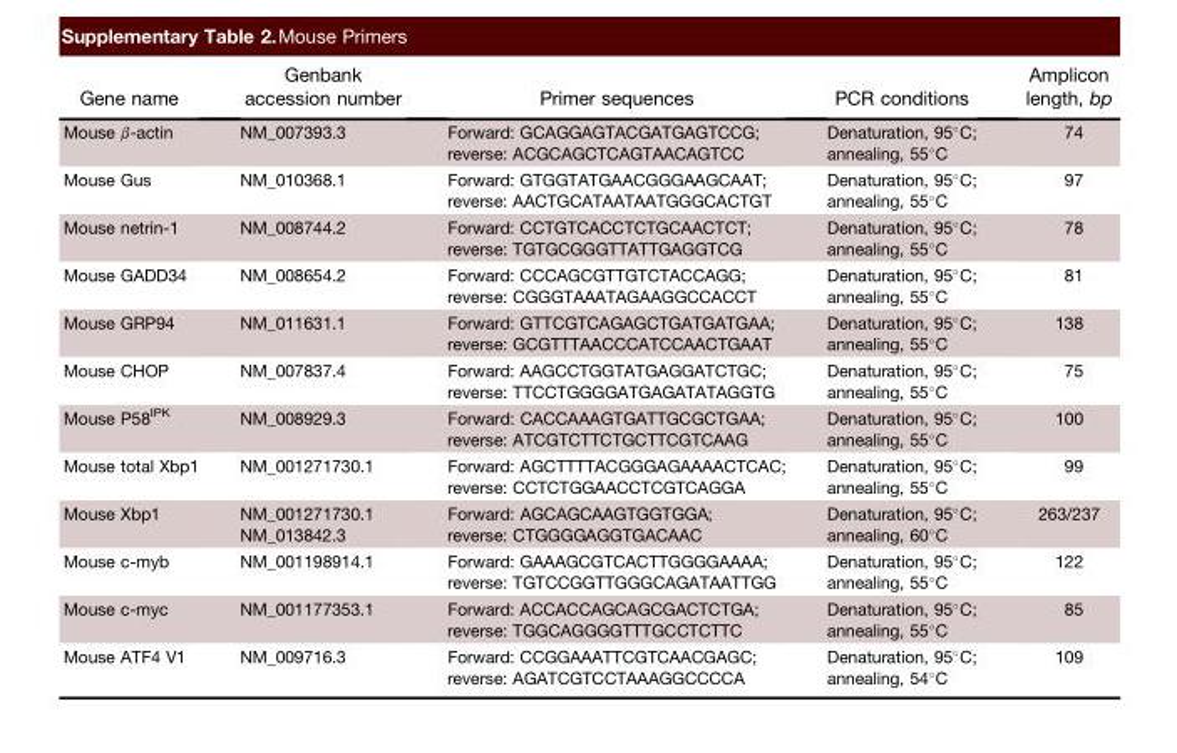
<table><thead><tr><td>Gene name</td><td>Genbank accession number</td><td>Primer sequences</td><td>PCR conditions</td><td>Amplicon length, bp</td></tr></thead><tbody><tr><td>Mouse β-actin</td><td>NM_007393.3</td><td>Forward: GCAGGAGTACGATGAGTCCG; reverse: ACGCAGCTCAGTAACAGTCC</td><td>Denaturation, 95°C; annealing, 55°C</td><td>74</td></tr><tr><td>Mouse Gus</td><td>NM_010368.1</td><td>Forward: GTGGTATGAACGGGAAGCAAT; reverse: AACTGCATAATAATGGGCACTGT</td><td>Denaturation, 95°C; annealing, 55°C</td><td>97</td></tr><tr><td>Mouse netrin-1</td><td>NM_008744.2</td><td>Forward: CCTGTCACCTCTGCAACTCT; reverse: TGTGCGGGTTATTGAGGTCG</td><td>Denaturation, 95°C; annealing, 55°C</td><td>78</td></tr><tr><td>Mouse GADD34</td><td>NM_008654.2</td><td>Forward: CCCAGCGTTGTCTACCAGG; reverse: CGGGTAAATAGAAGGCCACCT</td><td>Denaturation, 95°C; annealing, 55°C</td><td>81</td></tr><tr><td>Mouse GRP94</td><td>NM_011631.1</td><td>Forward: GTTCGTCAGAGCTGATGATGAA; reverse: GCGTTTAACCCATCCAACTGAAT</td><td>Denaturation, 95°C; annealing, 55°C</td><td>138</td></tr><tr><td>Mouse CHOP</td><td>NM_007837.4</td><td>Forward: AAGCCTGGTATGAGGATCTGC; reverse: TTCCTGGGGATGAGATATAGGTG</td><td>Denaturation, 95°C; annealing, 55°C</td><td>75</td></tr><tr><td>Mouse P58IPK</td><td>NM_008929.3</td><td>Forward: CACCAAAGTGATTGCGCTGAA; reverse: ATCGTCTTCTGCTTCGTCAAG</td><td>Denaturation, 95°C; annealing, 55°C</td><td>100</td></tr><tr><td>Mouse total Xbp1</td><td>NM_001271730.1</td><td>Forward: AGCTTTTACGGGAGAAAACTCAC; reverse: CCTCTGGAACCTCGTCAGGA</td><td>Denaturation, 95°C; annealing, 55°C</td><td>99</td></tr><tr><td>Mouse Xbp1</td><td>NM_001271730.1 NM_013842.3</td><td>Forward: AGCAGCAAGTGGTGGA; reverse: CTGGGGAGGTGACAAC</td><td>Denaturation, 95°C; annealing, 60°C</td><td>263/237</td></tr><tr><td>Mouse c-myb</td><td>NM_001198914.1</td><td>Forward: GAAAGCGTCACTTGGGGAAAA; reverse: TGTCCGGTTGGGCAGATAATTGG</td><td>Denaturation, 95°C; annealing, 55°C</td><td>122</td></tr><tr><td>Mouse c-myc</td><td>NM_001177353.1</td><td>Forward: ACCACCAGCAGCGACTCTGA; reverse: TGGCAGGGGTTTGCCTCTTC</td><td>Denaturation, 95°C; annealing, 55°C</td><td>85</td></tr><tr><td>Mouse ATF4 V1</td><td>NM_009716.3</td><td>Forward: CCGGAAATTCGTCAACGAGC; reverse: AGATCGTCCTAAAGGCCCCA</td><td>Denaturation, 95°C; annealing, 54°C</td><td>109</td></tr></tbody></table>